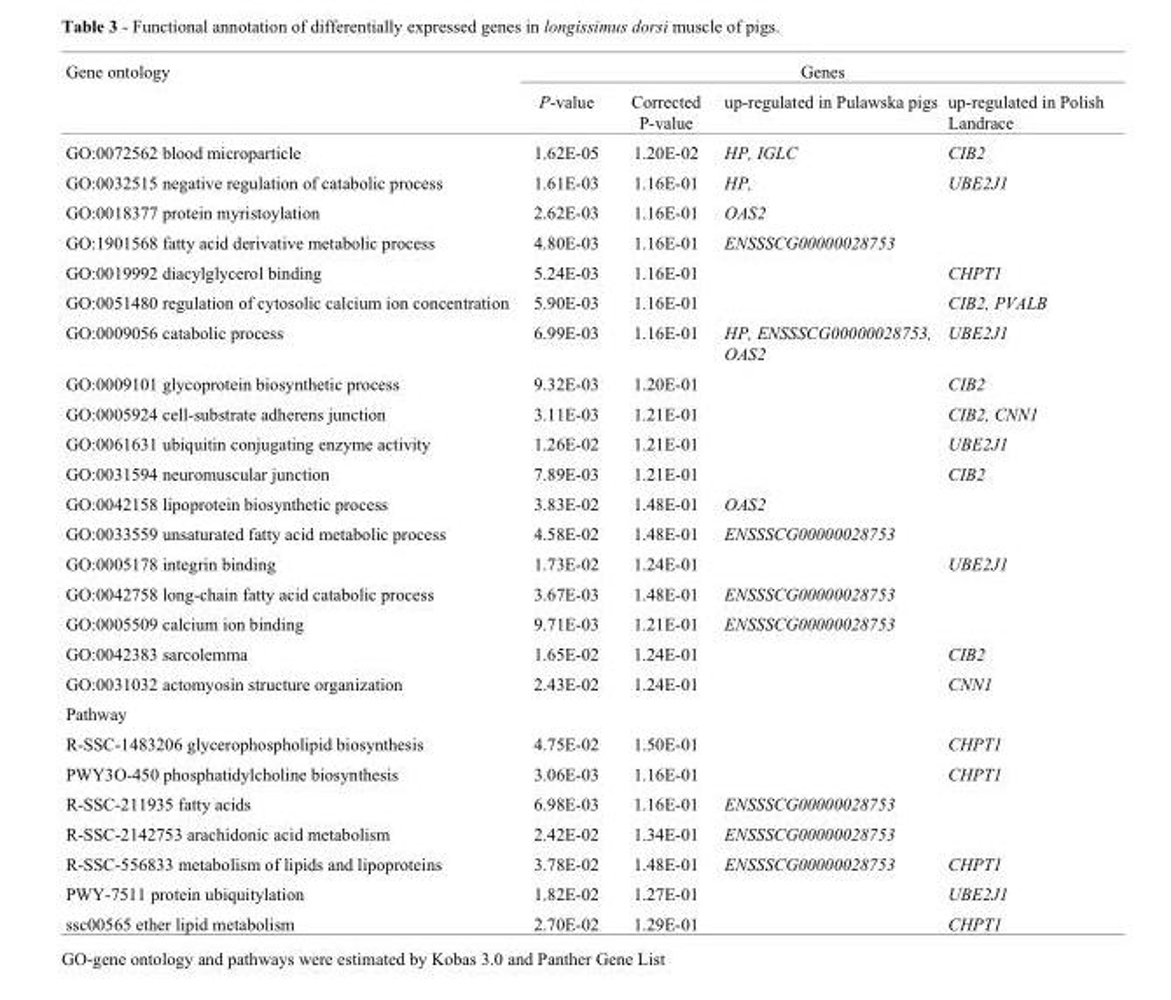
<table><thead><tr><td rowspan="2">Gene ontology</td><td colspan="4">Genes</td></tr><tr><td>P-value</td><td>Corrected P-value</td><td>up-regulated in Pulawska pigs</td><td>up-regulated in Polish Landrace</td></tr></thead><tbody><tr><td>GO:0072562 blood microparticle</td><td>1.62E-05</td><td>1.20E-02</td><td>HP, IGLC</td><td>CIB2</td></tr><tr><td>GO:0032515 negative regulation of catabolic process</td><td>1.61E-03</td><td>1.16E-01</td><td>HP,</td><td>UBE2J1</td></tr><tr><td>GO:0018377 protein myristoylation</td><td>2.62E-03</td><td>1.16E-01</td><td>OAS2</td><td></td></tr><tr><td>GO:1901568 fatty acid derivative metabolic process</td><td>4.80E-03</td><td>1.16E-01</td><td>ENSSSCG00000028753</td><td></td></tr><tr><td>GO:0019992 diacylglycerol binding</td><td>5.24E-03</td><td>1.16E-01</td><td></td><td>CHPT1</td></tr><tr><td>GO:0051480 regulation of cytosolic calcium ion concentration</td><td>5.90E-03</td><td>1.16E-01</td><td></td><td>CIB2, PVALB</td></tr><tr><td>GO:0009056 catabolic process</td><td>6.99E-03</td><td>1.16E-01</td><td>HP, ENSSSCG00000028753, OAS2</td><td>UBE2J1</td></tr><tr><td>GO:0009101 glycoprotein biosynthetic process</td><td>9.32E-03</td><td>1.20E-01</td><td></td><td>CIB2</td></tr><tr><td>GO:0005924 cell-substrate adherens junction</td><td>3.11E-03</td><td>1.21E-01</td><td></td><td>CIB2, CNN1</td></tr><tr><td>GO:0061631 ubiquitin conjugating enzyme activity</td><td>1.26E-02</td><td>1.21E-01</td><td></td><td>UBE2J1</td></tr><tr><td>GO:0031594 neuromuscular junction</td><td>7.89E-03</td><td>1.21E-01</td><td></td><td>CIB2</td></tr><tr><td>GO:0042158 lipoprotein biosynthetic process</td><td>3.83E-02</td><td>1.48E-01</td><td>OAS2</td><td></td></tr><tr><td>GO:0033559 unsaturated fatty acid metabolic process</td><td>4.58E-02</td><td>1.48E-01</td><td>ENSSSCG00000028753</td><td></td></tr><tr><td>GO:0005178 integrin binding</td><td>1.73E-02</td><td>1.24E-01</td><td></td><td>UBE2J1</td></tr><tr><td>GO:0042758 long-chain fatty acid catabolic process</td><td>3.67E-03</td><td>1.48E-01</td><td>ENSSSCG00000028753</td><td></td></tr><tr><td>GO:0005509 calcium ion binding</td><td>9.71E-03</td><td>1.21E-01</td><td>ENSSSCG00000028753</td><td></td></tr><tr><td>GO:0042383 sarcolemma</td><td>1.65E-02</td><td>1.24E-01</td><td></td><td>CIB2</td></tr><tr><td>GO:0031032 actomyosin structure organization</td><td>2.43E-02</td><td>1.24E-01</td><td></td><td>CNN1</td></tr><tr><td colspan="5">Pathway</td></tr><tr><td>R-SSC-1483206 glycerophospholipid biosynthesis</td><td>4.75E-02</td><td>1.50E-01</td><td></td><td>CHPT1</td></tr><tr><td>PWY3O-450 phosphatidylcholine biosynthesis</td><td>3.06E-03</td><td>1.16E-01</td><td></td><td>CHPT1</td></tr><tr><td>R-SSC-211935 fatty acids</td><td>6.98E-03</td><td>1.16E-01</td><td>ENSSSCG00000028753</td><td></td></tr><tr><td>R-SSC-2142753 arachidonic acid metabolism</td><td>2.42E-02</td><td>1.34E-01</td><td>ENSSSCG00000028753</td><td></td></tr><tr><td>R-SSC-556833 metabolism of lipids and lipoproteins</td><td>3.78E-02</td><td>1.48E-01</td><td>ENSSSCG00000028753</td><td>CHPT1</td></tr><tr><td>PWY-7511 protein ubiquitylation</td><td>1.82E-02</td><td>1.27E-01</td><td></td><td>UBE2J1</td></tr><tr><td>ssc00565 ether lipid metabolism</td><td>2.70E-02</td><td>1.29E-01</td><td></td><td>CHPT1</td></tr></tbody></table>